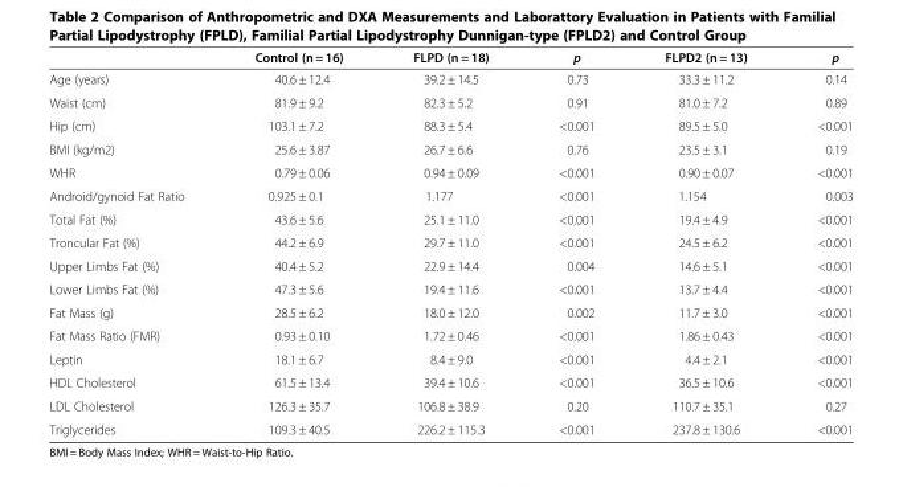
<table><thead><tr><td></td><td>Control (n = 16)</td><td>FLPD (n = 18)</td><td>p</td><td>FLPD2 (n = 13)</td><td>p</td></tr></thead><tbody><tr><td>Age (years)</td><td>40.6 ± 12.4</td><td>39.2 ± 14.5</td><td>0.73</td><td>33.3 ± 11.2</td><td>0.14</td></tr><tr><td>Waist (cm)</td><td>81.9 ± 9.2</td><td>82.3 ± 5.2</td><td>0.91</td><td>81.0 ± 7.2</td><td>0.89</td></tr><tr><td>Hip (cm)</td><td>103.1 ± 7.2</td><td>88.3 ± 5.4</td><td>&lt;0.001</td><td>89.5 ± 5.0</td><td>&lt;0.001</td></tr><tr><td>BMI (kg/m2)</td><td>25.6 ± 3.87</td><td>26.7 ± 6.6</td><td>0.76</td><td>23.5 ± 3.1</td><td>0.19</td></tr><tr><td>WHR</td><td>0.79 ± 0.06</td><td>0.94 ± 0.09</td><td>&lt;0.001</td><td>0.90 ± 0.07</td><td>&lt;0.001</td></tr><tr><td>Android/gynoid Fat Ratio</td><td>0.925 ± 0.1</td><td>1.177</td><td>&lt;0.001</td><td>1.154</td><td>0.003</td></tr><tr><td>Total Fat (%)</td><td>43.6 ± 5.6</td><td>25.1 ± 11.0</td><td>&lt;0.001</td><td>19.4 ± 4.9</td><td>&lt;0.001</td></tr><tr><td>Troncular Fat (%)</td><td>44.2 ± 6.9</td><td>29.7 ± 11.0</td><td>&lt;0.001</td><td>24.5 ± 6.2</td><td>&lt;0.001</td></tr><tr><td>Upper Limbs Fat (%)</td><td>40.4 ± 5.2</td><td>22.9 ± 14.4</td><td>0.004</td><td>14.6 ± 5.1</td><td>&lt;0.001</td></tr><tr><td>Lower Limbs Fat (%)</td><td>47.3 ± 5.6</td><td>19.4 ± 11.6</td><td>&lt;0.001</td><td>13.7 ± 4.4</td><td>&lt;0.001</td></tr><tr><td>Fat Mass (g)</td><td>28.5 ± 6.2</td><td>18.0 ± 12.0</td><td>0.002</td><td>11.7 ± 3.0</td><td>&lt;0.001</td></tr><tr><td>Fat Mass Ratio (FMR)</td><td>0.93 ± 0.10</td><td>1.72 ± 0.46</td><td>&lt;0.001</td><td>1.86 ± 0.43</td><td>&lt;0.001</td></tr><tr><td>Leptin</td><td>18.1 ± 6.7</td><td>8.4 ± 9.0</td><td>&lt;0.001</td><td>4.4 ± 2.1</td><td>&lt;0.001</td></tr><tr><td>HDL Cholesterol</td><td>61.5 ± 13.4</td><td>39.4 ± 10.6</td><td>&lt;0.001</td><td>36.5 ± 10.6</td><td>&lt;0.001</td></tr><tr><td>LDL Cholesterol</td><td>126.3 ± 35.7</td><td>106.8 ± 38.9</td><td>0.20</td><td>110.7 ± 35.1</td><td>0.27</td></tr><tr><td>Triglycerides</td><td>109.3 ± 40.5</td><td>226.2 ± 115.3</td><td>&lt;0.001</td><td>237.8 ± 130.6</td><td>&lt;0.001</td></tr></tbody></table>